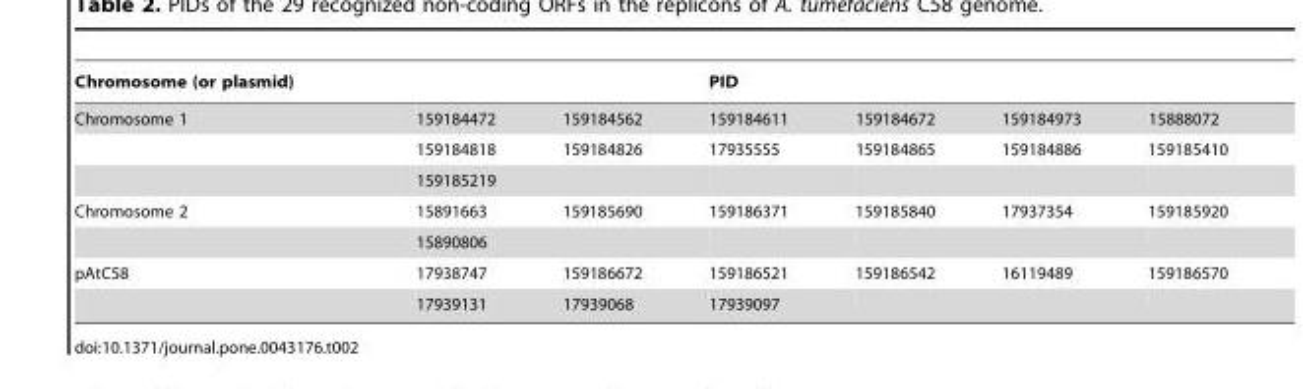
<table><thead><tr><td>Chromosome (or plasmid)</td><td></td><td></td><td>PID</td><td></td><td></td><td></td></tr></thead><tbody><tr><td rowspan="3">Chromosome 1</td><td>159184472</td><td>159184562</td><td>159184611</td><td>159184672</td><td>159184973</td><td>15888072</td></tr><tr><td>159184818</td><td>159184826</td><td>17935555</td><td>159184865</td><td>159184886</td><td>159185410</td></tr><tr><td>159185219</td><td></td><td></td><td></td><td></td><td></td></tr><tr><td rowspan="2">Chromosome 2</td><td>15891663</td><td>159185690</td><td>159186371</td><td>159185840</td><td>17937354</td><td>159185920</td></tr><tr><td>15890806</td><td></td><td></td><td></td><td></td><td></td></tr><tr><td rowspan="2">pAtC58</td><td>17938747</td><td>159186672</td><td>159186521</td><td>159186542</td><td>16119489</td><td>159186570</td></tr><tr><td>17939131</td><td>17939068</td><td>17939097</td><td></td><td></td><td></td></tr></tbody></table>